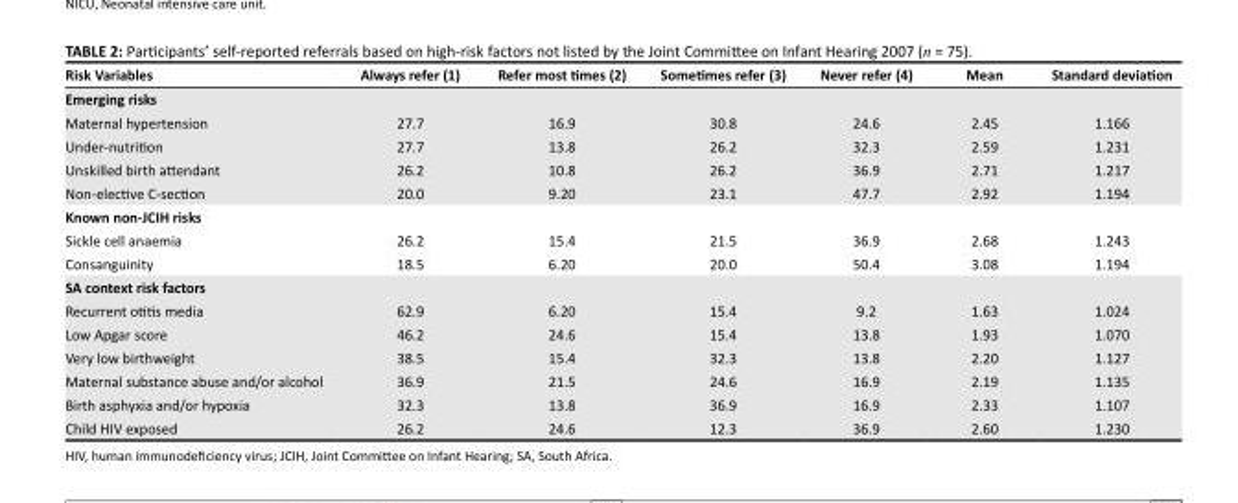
<table><thead><tr><td>Risk Variables</td><td>Always refer (1)</td><td>Refer most times (2)</td><td>Sometimes refer (3)</td><td>Never refer (4)</td><td>Mean</td><td>Standard deviation</td></tr></thead><tbody><tr><td colspan="7">Emerging risks</td></tr><tr><td>Maternal hypertension</td><td>27.7</td><td>16.9</td><td>30.8</td><td>24.6</td><td>2.45</td><td>1.166</td></tr><tr><td>Under-nutrition</td><td>27.7</td><td>13.8</td><td>26.2</td><td>32.3</td><td>2.59</td><td>1.231</td></tr><tr><td>Unskilled birth attendant</td><td>26.2</td><td>10.8</td><td>26.2</td><td>36.9</td><td>2.71</td><td>1.217</td></tr><tr><td>Non-elective C-section</td><td>20.0</td><td>9.20</td><td>23.1</td><td>47.7</td><td>2.92</td><td>1.194</td></tr><tr><td colspan="7">Known non-JCIH risks</td></tr><tr><td>Sickle cell anaemia</td><td>26.2</td><td>15.4</td><td>21.5</td><td>36.9</td><td>2.68</td><td>1.243</td></tr><tr><td>Consanguinity</td><td>18.5</td><td>6.20</td><td>20.0</td><td>50.4</td><td>3.08</td><td>1.194</td></tr><tr><td colspan="7">SA context risk factors</td></tr><tr><td>Recurrent otitis media</td><td>62.9</td><td>6.20</td><td>15.4</td><td>9.2</td><td>1.63</td><td>1.024</td></tr><tr><td>Low Apgar score</td><td>46.2</td><td>24.6</td><td>15.4</td><td>13.8</td><td>1.93</td><td>1.070</td></tr><tr><td>Very low birthweight</td><td>38.5</td><td>15.4</td><td>32.3</td><td>13.8</td><td>2.20</td><td>1.127</td></tr><tr><td>Maternal substance abuse and/or alcohol</td><td>36.9</td><td>21.5</td><td>24.6</td><td>16.9</td><td>2.19</td><td>1.135</td></tr><tr><td>Birth asphyxia and/or hypoxia</td><td>32.3</td><td>13.8</td><td>36.9</td><td>16.9</td><td>2.33</td><td>1.107</td></tr><tr><td>Child HIV exposed</td><td>26.2</td><td>24.6</td><td>12.3</td><td>36.9</td><td>2.60</td><td>1.230</td></tr></tbody></table>